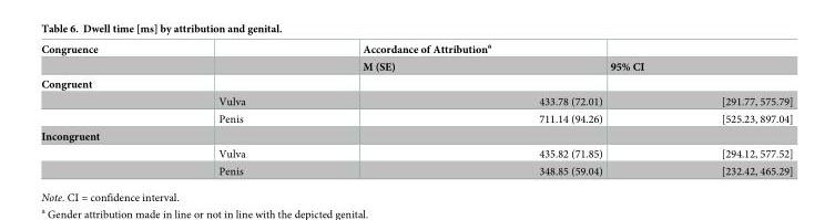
<table><thead><tr><td rowspan="2">Congruence</td><td rowspan="2"></td><td rowspan="2">Accordance of Attribution<sup>a</sup> M (SE)</td><td rowspan="2">95% CI</td></tr><tr></tr></thead><tbody><tr><td colspan="4">Congruent</td></tr><tr><td></td><td>Vulva</td><td>433.78 (72.01)</td><td>[291.77, 575.79]</td></tr><tr><td></td><td>Penis</td><td>711.14 (94.26)</td><td>[525.23, 897.04]</td></tr><tr><td colspan="4">Incongruent</td></tr><tr><td></td><td>Vulva</td><td>435.82 (71.85)</td><td>[294.12, 577.52]</td></tr><tr><td></td><td>Penis</td><td>348.85 (59.04)</td><td>[232.42, 465.29]</td></tr></tbody></table>